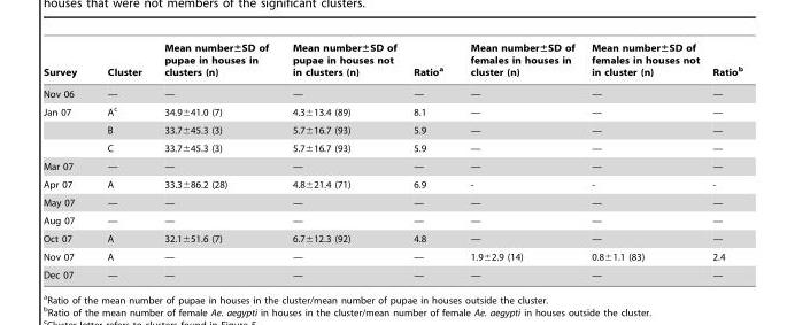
<table><thead><tr><td>Survey</td><td>Cluster</td><td>Mean number±SD of pupae in houses in clusters (n)</td><td>Mean number±SD of pupae in houses not in clusters (n)</td><td>Ratio<sup>a</sup></td><td>Mean number±SD of females in houses in cluster (n)</td><td>Mean number±SD of females in houses not in cluster (n)</td><td>Ratio<sup>b</sup></td></tr></thead><tbody><tr><td>Nov 06</td><td>—</td><td>—</td><td>—</td><td>—</td><td>—</td><td>—</td><td>—</td></tr><tr><td rowspan="3">Jan 07</td><td>A<sup>c</sup></td><td>34.9±41.0 (7)</td><td>4.3±13.4 (89)</td><td>8.1</td><td>—</td><td>—</td><td>—</td></tr><tr><td>B</td><td>33.7±45.3 (3)</td><td>5.7±16.7 (93)</td><td>5.9</td><td>—</td><td>—</td><td>—</td></tr><tr><td>C</td><td>33.7±45.3 (3)</td><td>5.7±16.7 (93)</td><td>5.9</td><td>—</td><td>—</td><td>—</td></tr><tr><td>Mar 07</td><td>—</td><td>—</td><td>—</td><td>—</td><td>—</td><td>—</td><td>—</td></tr><tr><td>Apr 07</td><td>A</td><td>33.3±86.2 (28)</td><td>4.8±21.4 (71)</td><td>6.9</td><td>-</td><td>-</td><td>-</td></tr><tr><td>May 07</td><td>—</td><td>—</td><td>—</td><td>—</td><td>—</td><td>—</td><td>—</td></tr><tr><td>Aug 07</td><td>—</td><td>—</td><td>—</td><td>—</td><td>—</td><td>—</td><td>—</td></tr><tr><td>Oct 07</td><td>A</td><td>32.1±51.6 (7)</td><td>6.7±12.3 (92)</td><td>4.8</td><td>—</td><td>—</td><td>—</td></tr><tr><td>Nov 07</td><td>A</td><td>—</td><td>—</td><td>—</td><td>1.9±2.9 (14)</td><td>0.8±1.1 (83)</td><td>2.4</td></tr><tr><td>Dec 07</td><td>—</td><td>—</td><td>—</td><td>—</td><td>—</td><td>—</td><td>—</td></tr></tbody></table>